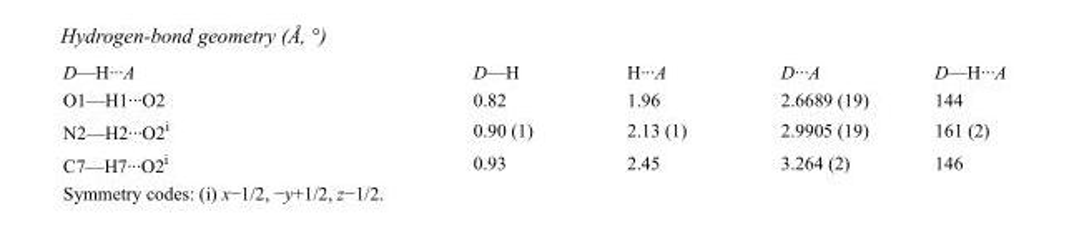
<table><tbody><tr><td>D—H···A</td><td>D—H</td><td>H···A</td><td>D···A</td><td>D—H···A</td></tr><tr><td>O1—H1···O2</td><td>0.82</td><td>1.96</td><td>2.6689 (19)</td><td>144</td></tr><tr><td>N2—H2···O2<sup>i</sup></td><td>0.90 (1)</td><td>2.13 (1)</td><td>2.9905 (19)</td><td>161 (2)</td></tr><tr><td>C7—H7···O2<sup>i</sup></td><td>0.93</td><td>2.45</td><td>3.264 (2)</td><td>146</td></tr></tbody></table>